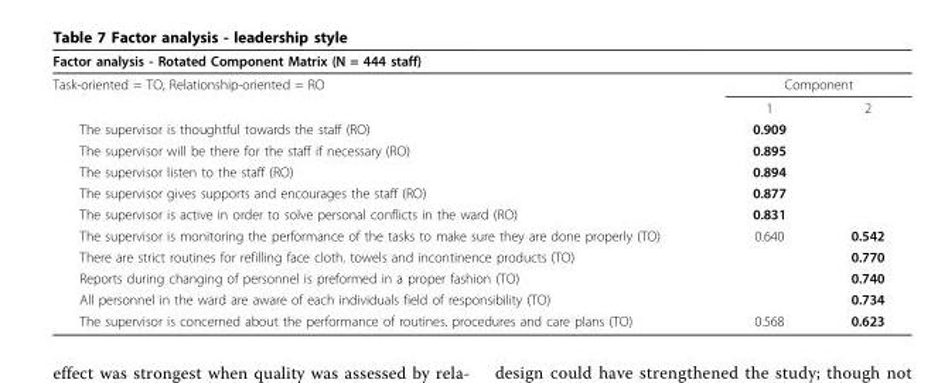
<table><thead><tr><td colspan="3">Factor analysis - Rotated Component Matrix (N = 444 staff)</td></tr><tr><td rowspan="2">Task-oriented = TO, Relationship-oriented = RO</td><td colspan="2">Component</td></tr><tr><td>1</td><td>2</td></tr></thead><tbody><tr><td>The supervisor is thoughtful towards the staff (RO)</td><td>0.909</td><td></td></tr><tr><td>The supervisor will be there for the staff if necessary (RO)</td><td>0.895</td><td></td></tr><tr><td>The supervisor listen to the staff (RO)</td><td>0.894</td><td></td></tr><tr><td>The supervisor gives supports and encourages the staff (RO)</td><td>0.877</td><td></td></tr><tr><td>The supervisor is active in order to solve personal conflicts in the ward (RO)</td><td>0.831</td><td></td></tr><tr><td>The supervisor is monitoring the performance of the tasks to make sure they are done properly (TO)</td><td>0.640</td><td>0.542</td></tr><tr><td>There are strict routines for refilling face cloth. towels and incontinence products (TO)</td><td></td><td>0.770</td></tr><tr><td>Reports during changing of personnel is preformed in a proper fashion (TO)</td><td></td><td>0.740</td></tr><tr><td>All personnel in the ward are aware of each individuals field of responsibility (TO)</td><td></td><td>0.734</td></tr><tr><td>The supervisor is concerned about the performance of routines. procedures and care plans (TO)</td><td>0.568</td><td>0.623</td></tr></tbody></table>